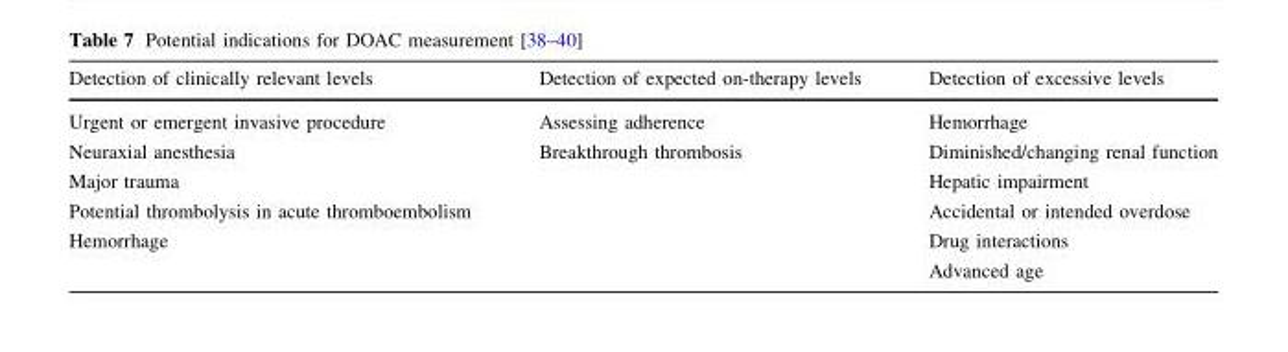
<table><thead><tr><td>Detection of clinically relevant levels</td><td>Detection of expected on-therapy levels</td><td>Detection of excessive levels</td></tr></thead><tbody><tr><td>Urgent or emergent invasive procedure</td><td>Assessing adherence</td><td>Hemorrhage</td></tr><tr><td>Neuraxial anesthesia</td><td>Breakthrough thrombosis</td><td>Diminished/changing renal function</td></tr><tr><td>Major trauma</td><td></td><td>Hepatic impairment</td></tr><tr><td>Potential thrombolysis in acute thromboembolism</td><td></td><td>Accidental or intended overdose</td></tr><tr><td rowspan="2">Hemorrhage</td><td></td><td>Drug interactions</td></tr><tr><td></td><td>Advanced age</td></tr></tbody></table>